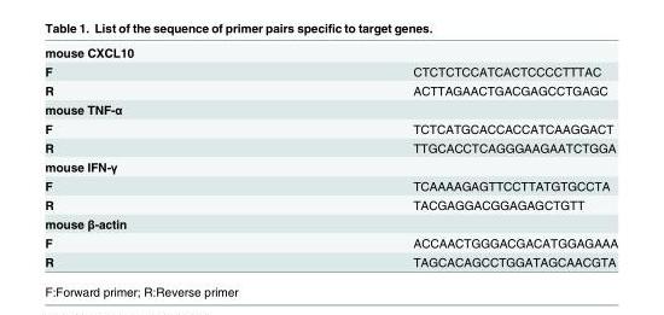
<table><tbody><tr><td colspan="2">mouse CXCL10</td></tr><tr><td>F</td><td>CTCTCTCCATCACTCCCCTTTAC</td></tr><tr><td>R</td><td>ACTTAGAACTGACGAGCCTGAGC</td></tr><tr><td colspan="2">mouse TNF-α</td></tr><tr><td>F</td><td>TCTCATGCACCACCATCAAGGACT</td></tr><tr><td>R</td><td>TTGCACCTCAGGGAAGAATCTGGA</td></tr><tr><td colspan="2">mouse IFN-γ</td></tr><tr><td>F</td><td>TCAAAAGAGTTCCTTATGTGCCTA</td></tr><tr><td>R</td><td>TACGAGGACGGAGAGCTGTT</td></tr><tr><td colspan="2">mouse β-actin</td></tr><tr><td>F</td><td>ACCAACTGGGACGACATGGAGAAA</td></tr><tr><td>R</td><td>TAGCACAGCCTGGATAGCAACGTA</td></tr></tbody></table>